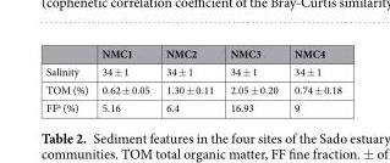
<table><thead><tr><td></td><td>NMC1</td><td>NMC2</td><td>NMC3</td><td>NMC4</td></tr></thead><tbody><tr><td>Salinity</td><td>34 ± 1</td><td>34 ± 1</td><td>34 ± 1</td><td>34 ± 1</td></tr><tr><td>TOM (%)</td><td>0.62 ± 0.05</td><td>1.30 ± 0.11</td><td>2.05 ± 0.20</td><td>0.74 ± 0.18</td></tr><tr><td>FF<sup>a</sup> (%)</td><td>5.16</td><td>6.4</td><td>16.93</td><td>9</td></tr></tbody></table>